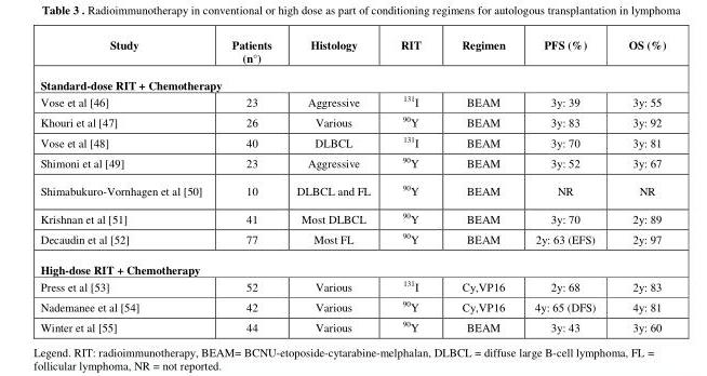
<table><thead><tr><td>Study</td><td>Patients (n°)</td><td>Histology</td><td>RIT</td><td>Regimen</td><td>PFS (%)</td><td>OS (%)</td></tr></thead><tbody><tr><td colspan="7">Standard-dose RIT + Chemotherapy</td></tr><tr><td>Vose et al [46]</td><td>23</td><td>Aggressive</td><td><sup>131</sup>I</td><td>BEAM</td><td>3y: 39</td><td>3y: 55</td></tr><tr><td>Khouri et al [47]</td><td>26</td><td>Various</td><td><sup>90</sup>Y</td><td>BEAM</td><td>3y: 83</td><td>3y: 92</td></tr><tr><td>Vose et al [48]</td><td>40</td><td>DLBCL</td><td><sup>131</sup>I</td><td>BEAM</td><td>3y: 70</td><td>3y: 81</td></tr><tr><td>Shimoni et al [49]</td><td>23</td><td>Aggressive</td><td><sup>90</sup>Y</td><td>BEAM</td><td>3y: 52</td><td>3y: 67</td></tr><tr><td>Shimabukuro-Vornhagen et al [50]</td><td>10</td><td>DLBCL and FL</td><td><sup>90</sup>Y</td><td>BEAM</td><td>NR</td><td>NR</td></tr><tr><td>Krishnan et al [51]</td><td>41</td><td>Most DLBCL</td><td><sup>90</sup>Y</td><td>BEAM</td><td>3y: 70</td><td>2y: 89</td></tr><tr><td>Decaudin et al [52]</td><td>77</td><td>Most FL</td><td><sup>90</sup>Y</td><td>BEAM</td><td>2y: 63 (EFS)</td><td>2y: 97</td></tr><tr><td colspan="7">High-dose RIT + Chemotherapy</td></tr><tr><td>Press et al [53]</td><td>52</td><td>Various</td><td><sup>131</sup>I</td><td>Cy,VP16</td><td>2y: 68</td><td>2y: 83</td></tr><tr><td>Nademanee et al [54]</td><td>42</td><td>Various</td><td><sup>90</sup>Y</td><td>Cy,VP16</td><td>4y: 65 (DFS)</td><td>4y: 81</td></tr><tr><td>Winter et al [55]</td><td>44</td><td>Various</td><td><sup>90</sup>Y</td><td>BEAM</td><td>3y: 43</td><td>3y: 60</td></tr></tbody></table>